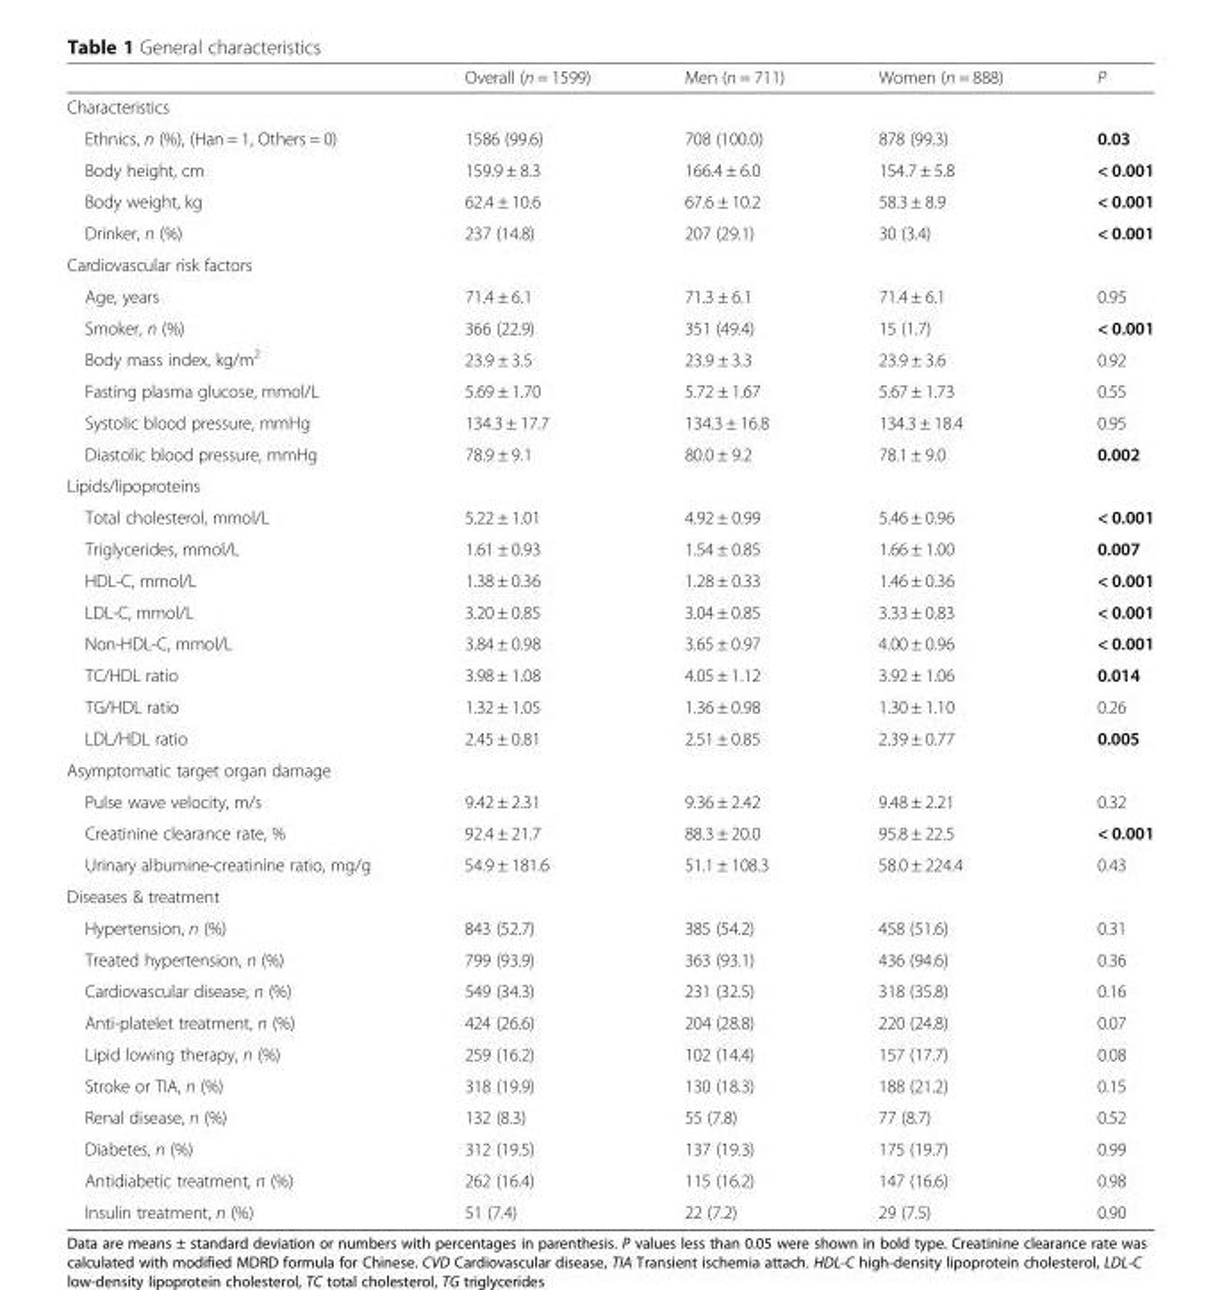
<table><thead><tr><td></td><td>Overall (n = 1599)</td><td>Men (n = 711)</td><td>Women (n = 888)</td><td>P</td></tr></thead><tbody><tr><td colspan="5">Characteristics</td></tr><tr><td>Ethnics, n (%), (Han = 1, Others = 0)</td><td>1586 (99.6)</td><td>708 (100.0)</td><td>878 (99.3)</td><td>0.03</td></tr><tr><td>Body height, cm</td><td>159.9 ± 8.3</td><td>166.4 ± 6.0</td><td>154.7 ± 5.8</td><td>&lt; 0.001</td></tr><tr><td>Body weight, kg</td><td>62.4 ± 10.6</td><td>67.6 ± 10.2</td><td>58.3 ± 8.9</td><td>&lt; 0.001</td></tr><tr><td>Drinker, n (%)</td><td>237 (14.8)</td><td>207 (29.1)</td><td>30 (3.4)</td><td>&lt; 0.001</td></tr><tr><td colspan="5">Cardiovascular risk factors</td></tr><tr><td>Age, years</td><td>71.4 ± 6.1</td><td>71.3 ± 6.1</td><td>71.4 ± 6.1</td><td>0.95</td></tr><tr><td>Smoker, n (%)</td><td>366 (22.9)</td><td>351 (49.4)</td><td>15 (1.7)</td><td>&lt; 0.001</td></tr><tr><td>Body mass index, kg/m<sup>2</sup></td><td>23.9 ± 3.5</td><td>23.9 ± 3.3</td><td>23.9 ± 3.6</td><td>0.92</td></tr><tr><td>Fasting plasma glucose, mmol/L</td><td>5.69 ± 1.70</td><td>5.72 ± 1.67</td><td>5.67 ± 1.73</td><td>0.55</td></tr><tr><td>Systolic blood pressure, mmHg</td><td>134.3 ± 17.7</td><td>134.3 ± 16.8</td><td>134.3 ± 18.4</td><td>0.95</td></tr><tr><td>Diastolic blood pressure, mmHg</td><td>78.9 ± 9.1</td><td>80.0 ± 9.2</td><td>78.1 ± 9.0</td><td>0.002</td></tr><tr><td colspan="5">Lipids/lipoproteins</td></tr><tr><td>Total cholesterol, mmol/L</td><td>5.22 ± 1.01</td><td>4.92 ± 0.99</td><td>5.46 ± 0.96</td><td>&lt; 0.001</td></tr><tr><td>Triglycerides, mmol/L</td><td>1.61 ± 0.93</td><td>1.54 ± 0.85</td><td>1.66 ± 1.00</td><td>0.007</td></tr><tr><td>HDL-C, mmol/L</td><td>1.38 ± 0.36</td><td>1.28 ± 0.33</td><td>1.46 ± 0.36</td><td>&lt; 0.001</td></tr><tr><td>LDL-C, mmol/L</td><td>3.20 ± 0.85</td><td>3.04 ± 0.85</td><td>3.33 ± 0.83</td><td>&lt; 0.001</td></tr><tr><td>Non-HDL-C, mmol/L</td><td>3.84 ± 0.98</td><td>3.65 ± 0.97</td><td>4.00 ± 0.96</td><td>&lt; 0.001</td></tr><tr><td>TC/HDL ratio</td><td>3.98 ± 1.08</td><td>4.05 ± 1.12</td><td>3.92 ± 1.06</td><td>0.014</td></tr><tr><td>TG/HDL ratio</td><td>1.32 ± 1.05</td><td>1.36 ± 0.98</td><td>1.30 ± 1.10</td><td>0.26</td></tr><tr><td>LDL/HDL ratio</td><td>2.45 ± 0.81</td><td>2.51 ± 0.85</td><td>2.39 ± 0.77</td><td>0.005</td></tr><tr><td colspan="5">Asymptomatic target organ damage</td></tr><tr><td>Pulse wave velocity, m/s</td><td>9.42 ± 2.31</td><td>9.36 ± 2.42</td><td>9.48 ± 2.21</td><td>0.32</td></tr><tr><td>Creatinine clearance rate, %</td><td>92.4 ± 21.7</td><td>88.3 ± 20.0</td><td>95.8 ± 22.5</td><td>&lt; 0.001</td></tr><tr><td>Urinary albumine-creatinine ratio, mg/g</td><td>54.9 ± 181.6</td><td>51.1 ± 108.3</td><td>58.0 ± 224.4</td><td>0.43</td></tr><tr><td colspan="5">Diseases &amp; treatment</td></tr><tr><td>Hypertension, n (%)</td><td>843 (52.7)</td><td>385 (54.2)</td><td>458 (51.6)</td><td>0.31</td></tr><tr><td>Treated hypertension, n (%)</td><td>799 (93.9)</td><td>363 (93.1)</td><td>436 (94.6)</td><td>0.36</td></tr><tr><td>Cardiovascular disease, n (%)</td><td>549 (34.3)</td><td>231 (32.5)</td><td>318 (35.8)</td><td>0.16</td></tr><tr><td>Anti-platelet treatment, n (%)</td><td>424 (26.6)</td><td>204 (28.8)</td><td>220 (24.8)</td><td>0.07</td></tr><tr><td>Lipid lowing therapy, n (%)</td><td>259 (16.2)</td><td>102 (14.4)</td><td>157 (17.7)</td><td>0.08</td></tr><tr><td>Stroke or TIA, n (%)</td><td>318 (19.9)</td><td>130 (18.3)</td><td>188 (21.2)</td><td>0.15</td></tr><tr><td>Renal disease, n (%)</td><td>132 (8.3)</td><td>55 (7.8)</td><td>77 (8.7)</td><td>0.52</td></tr><tr><td>Diabetes, n (%)</td><td>312 (19.5)</td><td>137 (19.3)</td><td>175 (19.7)</td><td>0.99</td></tr><tr><td>Antidiabetic treatment, n (%)</td><td>262 (16.4)</td><td>115 (16.2)</td><td>147 (16.6)</td><td>0.98</td></tr><tr><td>Insulin treatment, n (%)</td><td>51 (7.4)</td><td>22 (7.2)</td><td>29 (7.5)</td><td>0.90</td></tr></tbody></table>